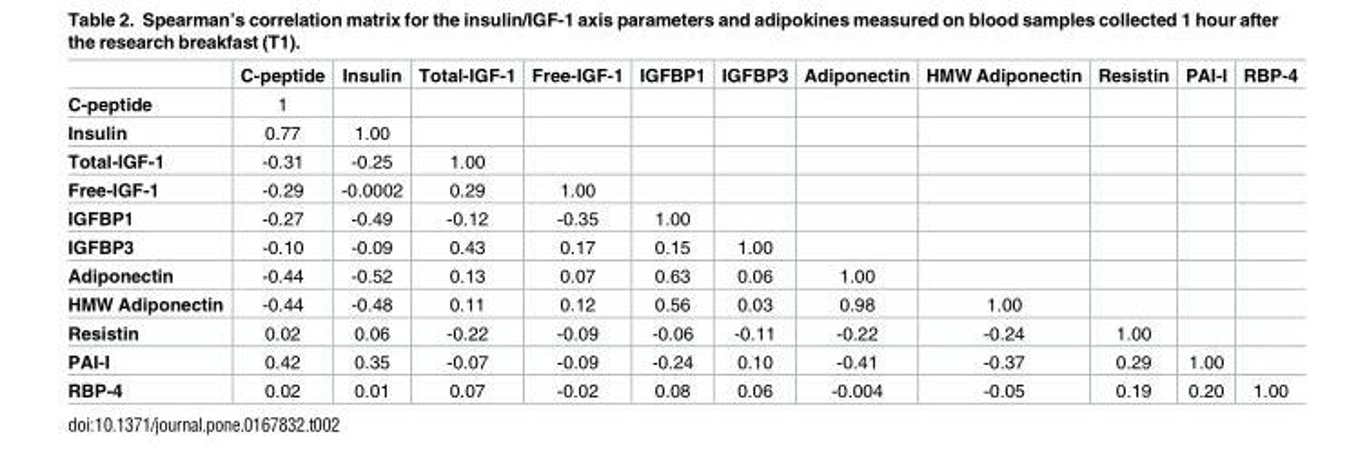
<table><thead><tr><td></td><td>C-peptide</td><td>Insulin</td><td>Total-IGF-1</td><td>Free-IGF-1</td><td>IGFBP1</td><td>IGFBP3</td><td>Adiponectin</td><td>HMW Adiponectin</td><td>Resistin</td><td>PAI-I</td><td>RBP-4</td></tr></thead><tbody><tr><td>C-peptide</td><td>1</td><td></td><td></td><td></td><td></td><td></td><td></td><td></td><td></td><td></td><td></td></tr><tr><td>Insulin</td><td>0.77</td><td>1.00</td><td></td><td></td><td></td><td></td><td></td><td></td><td></td><td></td><td></td></tr><tr><td>Total-IGF-1</td><td>-0.31</td><td>-0.25</td><td>1.00</td><td></td><td></td><td></td><td></td><td></td><td></td><td></td><td></td></tr><tr><td>Free-IGF-1</td><td>-0.29</td><td>-0.0002</td><td>0.29</td><td>1.00</td><td></td><td></td><td></td><td></td><td></td><td></td><td></td></tr><tr><td>IGFBP1</td><td>-0.27</td><td>-0.49</td><td>-0.12</td><td>-0.35</td><td>1.00</td><td></td><td></td><td></td><td></td><td></td><td></td></tr><tr><td>IGFBP3</td><td>-0.10</td><td>-0.09</td><td>0.43</td><td>0.17</td><td>0.15</td><td>1.00</td><td></td><td></td><td></td><td></td><td></td></tr><tr><td>Adiponectin</td><td>-0.44</td><td>-0.52</td><td>0.13</td><td>0.07</td><td>0.63</td><td>0.06</td><td>1.00</td><td></td><td></td><td></td><td></td></tr><tr><td>HMW Adiponectin</td><td>-0.44</td><td>-0.48</td><td>0.11</td><td>0.12</td><td>0.56</td><td>0.03</td><td>0.98</td><td>1.00</td><td></td><td></td><td></td></tr><tr><td>Resistin</td><td>0.02</td><td>0.06</td><td>-0.22</td><td>-0.09</td><td>-0.06</td><td>-0.11</td><td>-0.22</td><td>-0.24</td><td>1.00</td><td></td><td></td></tr><tr><td>PAI-I</td><td>0.42</td><td>0.35</td><td>-0.07</td><td>-0.09</td><td>-0.24</td><td>0.10</td><td>-0.41</td><td>-0.37</td><td>0.29</td><td>1.00</td><td></td></tr><tr><td>RBP-4</td><td>0.02</td><td>0.01</td><td>0.07</td><td>-0.02</td><td>0.08</td><td>0.06</td><td>-0.004</td><td>-0.05</td><td>0.19</td><td>0.20</td><td>1.00</td></tr></tbody></table>